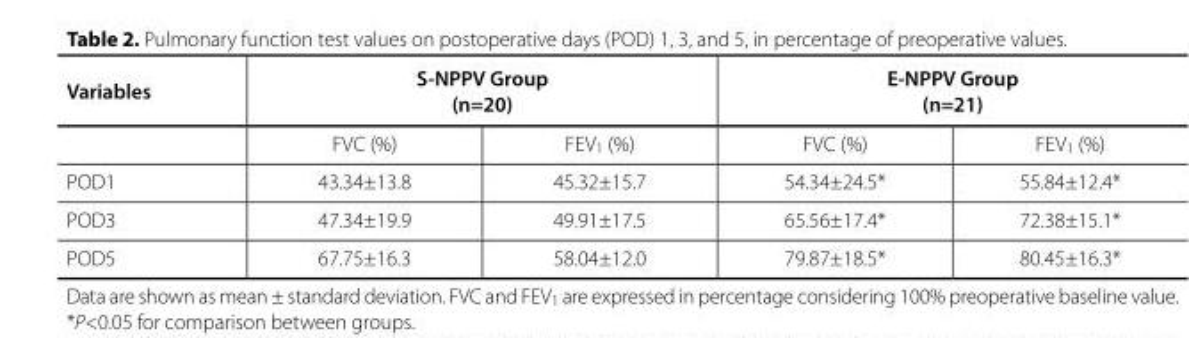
<table><thead><tr><td rowspan="2">Variables</td><td colspan="2">S-NPPV Group (n=20)</td><td colspan="2">E-NPPV Group (n=21)</td></tr><tr><td>FVC (%)</td><td>FEV<sub>1</sub> (%)</td><td>FVC (%)</td><td>FEV<sub>1</sub> (%)</td></tr></thead><tbody><tr><td>POD1</td><td>43.34±13.8</td><td>45.32±15.7</td><td>54.34±24.5*</td><td>55.84±12.4*</td></tr><tr><td>POD3</td><td>47.34±19.9</td><td>49.91±17.5</td><td>65.56±17.4*</td><td>72.38±15.1*</td></tr><tr><td>POD5</td><td>67.75±16.3</td><td>58.04±12.0</td><td>79.87±18.5*</td><td>80.45±16.3*</td></tr></tbody></table>